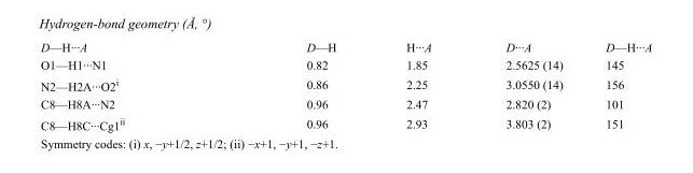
<table><tbody><tr><td>D—H···A</td><td>D—H</td><td>H···A</td><td>D···A</td><td>D—H···A</td></tr><tr><td>O1—H1···N1</td><td>0.82</td><td>1.85</td><td>2.5625 (14)</td><td>145</td></tr><tr><td>N2—H2A···O2<sup>i</sup></td><td>0.86</td><td>2.25</td><td>3.0550 (14)</td><td>156</td></tr><tr><td>C8—H8A···N2</td><td>0.96</td><td>2.47</td><td>2.820 (2)</td><td>101</td></tr><tr><td>C8—H8C···Cg1<sup>ii</sup></td><td>0.96</td><td>2.93</td><td>3.803 (2)</td><td>151</td></tr></tbody></table>